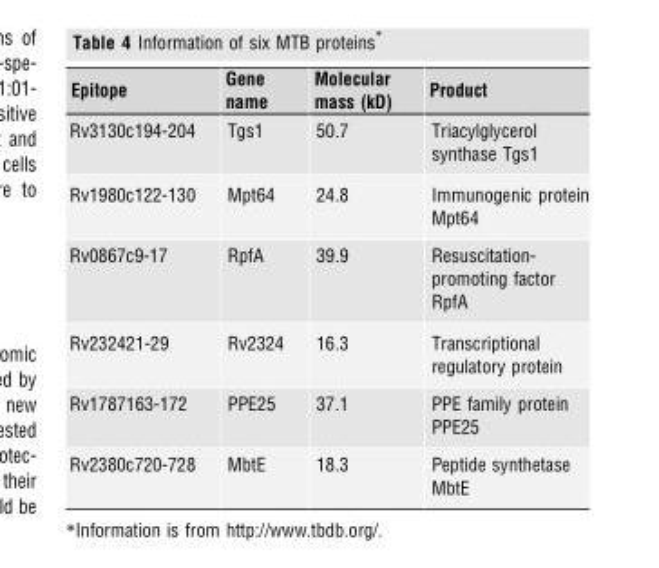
<table><thead><tr><td>Epitope</td><td>Gene name</td><td>Molecular mass (kD)</td><td>Product</td></tr></thead><tbody><tr><td>Rv3130c194-204</td><td>Tgs1</td><td>50.7</td><td>Triacylglycerol synthase Tgs1</td></tr><tr><td>Rv1980c122-130</td><td>Mpt64</td><td>24.8</td><td>Immunogenic protein Mpt64</td></tr><tr><td>Rv0867c9-17</td><td>RpfA</td><td>39.9</td><td>Resuscitation- promoting factor RpfA</td></tr><tr><td>Rv232421-29</td><td>Rv2324</td><td>16.3</td><td>Transcriptional regulatory protein</td></tr><tr><td>Rv1787163-172</td><td>PPE25</td><td>37.1</td><td>PPE family protein PPE25</td></tr><tr><td>Rv2380c720-728</td><td>MbtE</td><td>18.3</td><td>Peptide synthetase MbtE</td></tr></tbody></table>